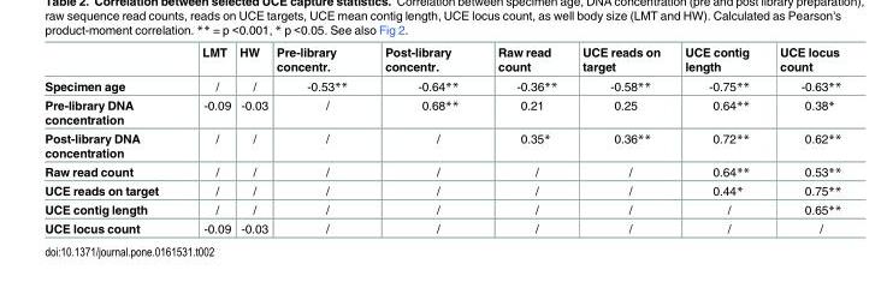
<table><thead><tr><td></td><td>LMT</td><td>HW</td><td>Pre-library concentr.</td><td>Post-library concentr.</td><td>Raw read count</td><td>UCE reads on target</td><td>UCE contig length</td><td>UCE locus count</td></tr></thead><tbody><tr><td>Specimen age</td><td>/</td><td>/</td><td>-0.53**</td><td>-0.64**</td><td>-0.36**</td><td>-0.58**</td><td>-0.75**</td><td>-0.63**</td></tr><tr><td>Pre-library DNA concentration</td><td>-0.09</td><td>-0.03</td><td>/</td><td>0.68**</td><td>0.21</td><td>0.25</td><td>0.64**</td><td>0.38*</td></tr><tr><td>Post-library DNA concentration</td><td>/</td><td>/</td><td>/</td><td>/</td><td>0.35*</td><td>0.36**</td><td>0.72**</td><td>0.62**</td></tr><tr><td>Raw read count</td><td>/</td><td>/</td><td>/</td><td>/</td><td>/</td><td>/</td><td>0.64**</td><td>0.53**</td></tr><tr><td>UCE reads on target</td><td>/</td><td>/</td><td>/</td><td>/</td><td>/</td><td>/</td><td>0.44*</td><td>0.75**</td></tr><tr><td>UCE contig length</td><td>/</td><td>/</td><td>/</td><td>/</td><td>/</td><td>/</td><td>/</td><td>0.65**</td></tr><tr><td>UCE locus count</td><td>-0.09</td><td>-0.03</td><td>/</td><td>/</td><td>/</td><td>/</td><td>/</td><td>/</td></tr></tbody></table>